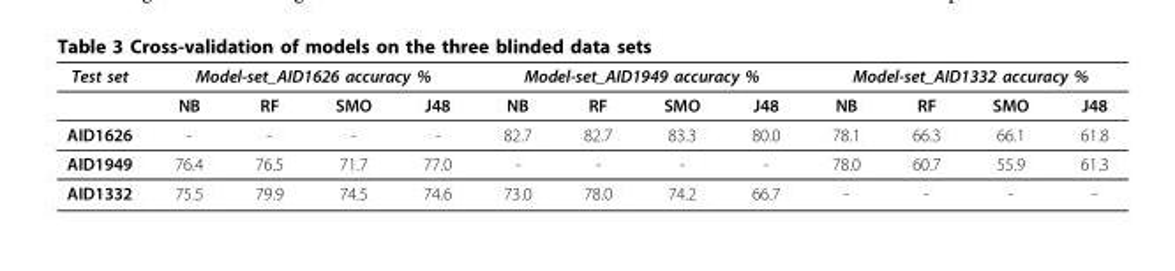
<table><thead><tr><td rowspan="2">Test set</td><td colspan="4">Model-set_AID1626 accuracy %</td><td colspan="4">Model-set_AID1949 accuracy %</td><td colspan="4">Model-set_AID1332 accuracy %</td></tr><tr><td>NB</td><td>RF</td><td>SMO</td><td>J48</td><td>NB</td><td>RF</td><td>SMO</td><td>J48</td><td>NB</td><td>RF</td><td>SMO</td><td>J48</td></tr></thead><tbody><tr><td>AID1626</td><td>-</td><td>-</td><td>-</td><td>-</td><td>82.7</td><td>82.7</td><td>83.3</td><td>80.0</td><td>78.1</td><td>66.3</td><td>66.1</td><td>61.8</td></tr><tr><td>AID1949</td><td>76.4</td><td>76.5</td><td>71.7</td><td>77.0</td><td>-</td><td>-</td><td>-</td><td>-</td><td>78.0</td><td>60.7</td><td>55.9</td><td>61.3</td></tr><tr><td>AID1332</td><td>75.5</td><td>79.9</td><td>74.5</td><td>74.6</td><td>73.0</td><td>78.0</td><td>74.2</td><td>66.7</td><td>-</td><td>-</td><td>-</td><td>-</td></tr></tbody></table>